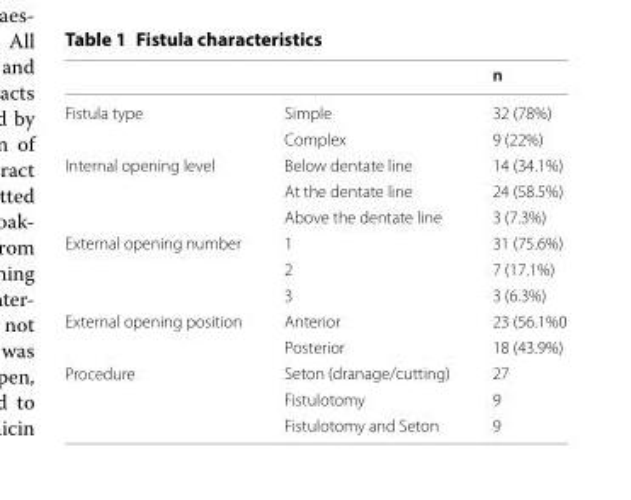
<table><thead><tr><td></td><td></td><td>n</td></tr></thead><tbody><tr><td rowspan="2">Fistula type</td><td>Simple</td><td>32 (78%)</td></tr><tr><td>Complex</td><td>9 (22%)</td></tr><tr><td rowspan="3">Internal opening level</td><td>Below dentate line</td><td>14 (34.1%)</td></tr><tr><td>At the dentate line</td><td>24 (58.5%)</td></tr><tr><td>Above the dentate line</td><td>3 (7.3%)</td></tr><tr><td rowspan="3">External opening number</td><td>1</td><td>31 (75.6%)</td></tr><tr><td>2</td><td>7 (17.1%)</td></tr><tr><td>3</td><td>3 (6.3%)</td></tr><tr><td rowspan="2">External opening position</td><td>Anterior</td><td>23 (56.1%0</td></tr><tr><td>Posterior</td><td>18 (43.9%)</td></tr><tr><td rowspan="3">Procedure</td><td>Seton (dranage/cutting)</td><td>27</td></tr><tr><td>Fistulotomy</td><td>9</td></tr><tr><td>Fistulotomy and Seton</td><td>9</td></tr></tbody></table>